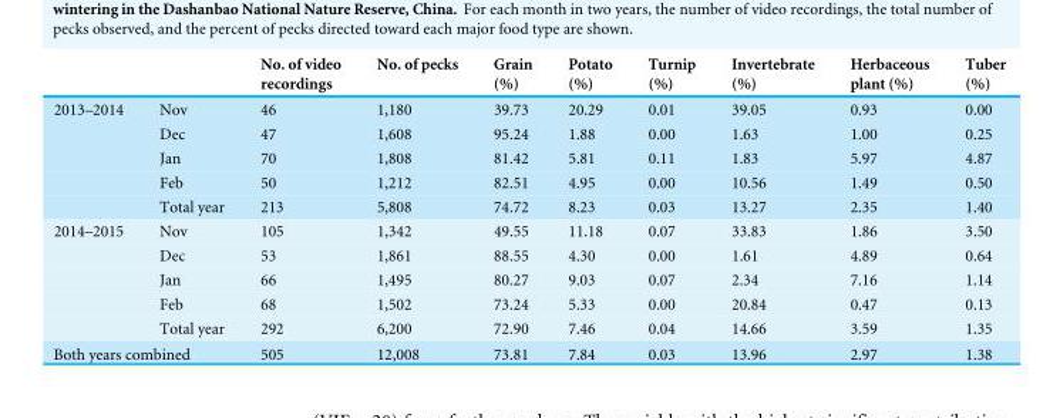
<table><thead><tr><td></td><td></td><td>No. of video recordings</td><td>No. of pecks</td><td>Grain (%)</td><td>Potato (%)</td><td>Turnip (%)</td><td>Invertebrate (%)</td><td>Herbaceous plant (%)</td><td>Tuber (%)</td></tr></thead><tbody><tr><td rowspan="5">2013–2014</td><td>Nov</td><td>46</td><td>1,180</td><td>39.73</td><td>20.29</td><td>0.01</td><td>39.05</td><td>0.93</td><td>0.00</td></tr><tr><td>Dec</td><td>47</td><td>1,608</td><td>95.24</td><td>1.88</td><td>0.00</td><td>1.63</td><td>1.00</td><td>0.25</td></tr><tr><td>Jan</td><td>70</td><td>1,808</td><td>81.42</td><td>5.81</td><td>0.11</td><td>1.83</td><td>5.97</td><td>4.87</td></tr><tr><td>Feb</td><td>50</td><td>1,212</td><td>82.51</td><td>4.95</td><td>0.00</td><td>10.56</td><td>1.49</td><td>0.50</td></tr><tr><td>Total year</td><td>213</td><td>5,808</td><td>74.72</td><td>8.23</td><td>0.03</td><td>13.27</td><td>2.35</td><td>1.40</td></tr><tr><td rowspan="5">2014–2015</td><td>Nov</td><td>105</td><td>1,342</td><td>49.55</td><td>11.18</td><td>0.07</td><td>33.83</td><td>1.86</td><td>3.50</td></tr><tr><td>Dec</td><td>53</td><td>1,861</td><td>88.55</td><td>4.30</td><td>0.00</td><td>1.61</td><td>4.89</td><td>0.64</td></tr><tr><td>Jan</td><td>66</td><td>1,495</td><td>80.27</td><td>9.03</td><td>0.07</td><td>2.34</td><td>7.16</td><td>1.14</td></tr><tr><td>Feb</td><td>68</td><td>1,502</td><td>73.24</td><td>5.33</td><td>0.00</td><td>20.84</td><td>0.47</td><td>0.13</td></tr><tr><td>Total year</td><td>292</td><td>6,200</td><td>72.90</td><td>7.46</td><td>0.04</td><td>14.66</td><td>3.59</td><td>1.35</td></tr><tr><td colspan="2">Both years combined</td><td>505</td><td>12,008</td><td>73.81</td><td>7.84</td><td>0.03</td><td>13.96</td><td>2.97</td><td>1.38</td></tr></tbody></table>